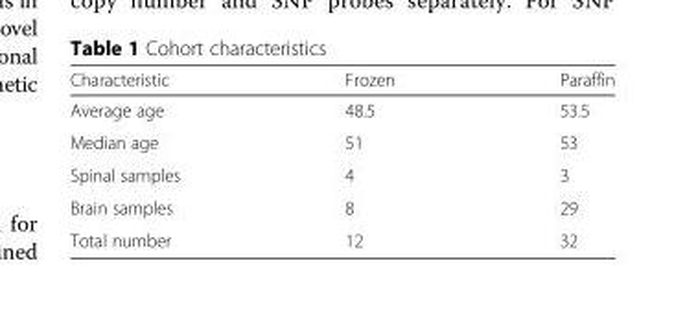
<table><thead><tr><td>Characteristic</td><td>Frozen</td><td>Paraffin</td></tr></thead><tbody><tr><td>Average age</td><td>48.5</td><td>53.5</td></tr><tr><td>Median age</td><td>51</td><td>53</td></tr><tr><td>Spinal samples</td><td>4</td><td>3</td></tr><tr><td>Brain samples</td><td>8</td><td>29</td></tr><tr><td>Total number</td><td>12</td><td>32</td></tr></tbody></table>